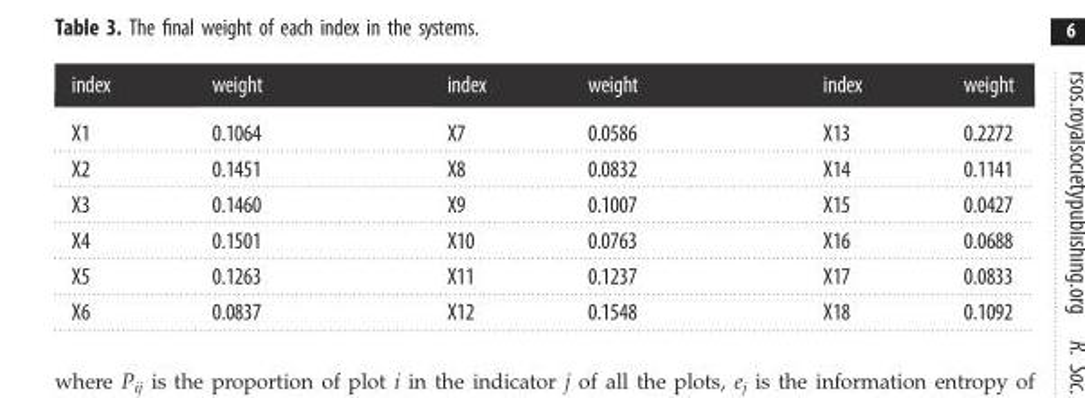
<table><thead><tr><td>index</td><td>weight</td><td>index</td><td>weight</td><td>index</td><td>weight</td></tr></thead><tbody><tr><td>X1</td><td>0.1064</td><td>X7</td><td>0.0586</td><td>X13</td><td>0.2272</td></tr><tr><td>X2</td><td>0.1451</td><td>X8</td><td>0.0832</td><td>X14</td><td>0.1141</td></tr><tr><td>X3</td><td>0.1460</td><td>X9</td><td>0.1007</td><td>X15</td><td>0.0427</td></tr><tr><td>X4</td><td>0.1501</td><td>X10</td><td>0.0763</td><td>X16</td><td>0.0688</td></tr><tr><td>X5</td><td>0.1263</td><td>X11</td><td>0.1237</td><td>X17</td><td>0.0833</td></tr><tr><td>X6</td><td>0.0837</td><td>X12</td><td>0.1548</td><td>X18</td><td>0.1092</td></tr></tbody></table>